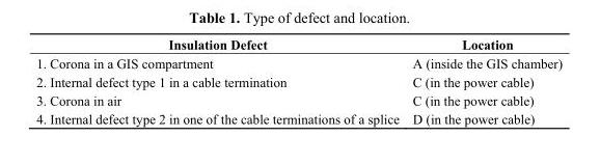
<table><thead><tr><td>Insulation Defect</td><td>Location</td></tr></thead><tbody><tr><td>1. Corona in a GIS compartment</td><td>A (inside the GIS chamber)</td></tr><tr><td>2. Internal defect type 1 in a cable termination</td><td>C (in the power cable)</td></tr><tr><td>3. Corona in air</td><td>C (in the power cable)</td></tr><tr><td>4. Internal defect type 2 in one of the cable terminations of a splice</td><td>D (in the power cable)</td></tr></tbody></table>